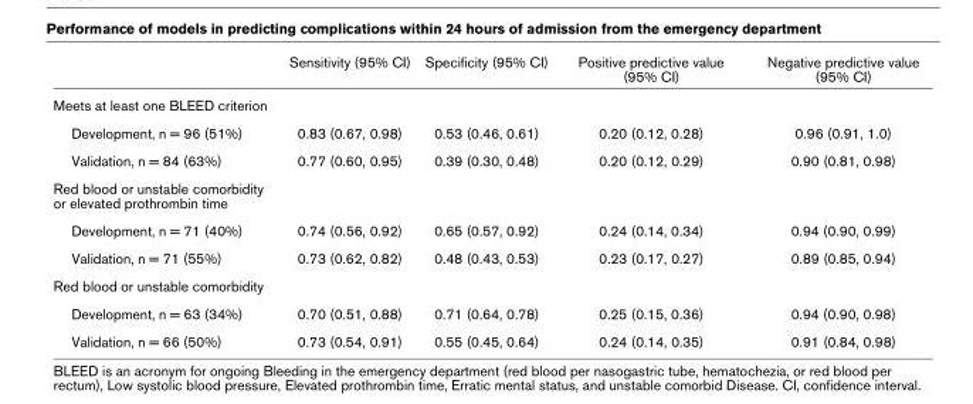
<table><thead><tr><td></td><td>Sensitivity (95% CI)</td><td>Specificity (95% CI)</td><td>Positive predictive value (95% CI)</td><td>Negative predictive value (95% CI)</td></tr></thead><tbody><tr><td colspan="5">Meets at least one BLEED criterion</td></tr><tr><td>Development, n = 96 (51%)</td><td>0.83 (0.67, 0.98)</td><td>0.53 (0.46, 0.61)</td><td>0.20 (0.12, 0.28)</td><td>0.96 (0.91, 1.0)</td></tr><tr><td>Validation, n = 84 (63%)</td><td>0.77 (0.60, 0.95)</td><td>0.39 (0.30, 0.48)</td><td>0.20 (0.12, 0.29)</td><td>0.90 (0.81, 0.98)</td></tr><tr><td colspan="5">Red blood or unstable comorbidity or elevated prothrombin time</td></tr><tr><td>Development, n = 71 (40%)</td><td>0.74 (0.56, 0.92)</td><td>0.65 (0.57, 0.92)</td><td>0.24 (0.14, 0.34)</td><td>0.94 (0.90, 0.99)</td></tr><tr><td>Validation, n = 71 (55%)</td><td>0.73 (0.62, 0.82)</td><td>0.48 (0.43, 0.53)</td><td>0.23 (0.17, 0.27)</td><td>0.89 (0.85, 0.94)</td></tr><tr><td colspan="5">Red blood or unstable comorbidity</td></tr><tr><td>Development, n = 63 (34%)</td><td>0.70 (0.51, 0.88)</td><td>0.71 (0.64, 0.78)</td><td>0.25 (0.15, 0.36)</td><td>0.94 (0.90, 0.98)</td></tr><tr><td>Validation, n = 66 (50%)</td><td>0.73 (0.54, 0.91)</td><td>0.55 (0.45, 0.64)</td><td>0.24 (0.14, 0.35)</td><td>0.91 (0.84, 0.98)</td></tr></tbody></table>